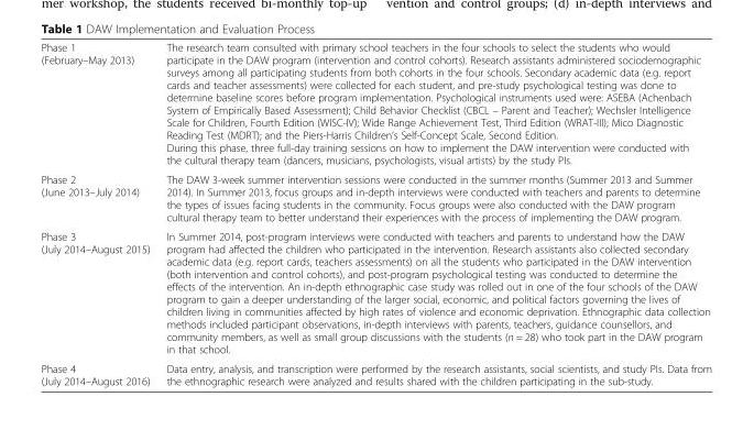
<table><tbody><tr><td>Phase 1 (February–May 2013)</td><td>The research team consulted with primary school teachers in the four schools to select the students who would participate in the DAW program (intervention and control cohorts). Research assistants administered sociodemographic surveys among all participating students from both cohorts in the four schools. Secondary academic data (e.g. report cards and teacher assessments) were collected for each student, and pre-study psychological testing was done to determine baseline scores before program implementation. Psychological instruments used were: ASEBA (Achenbach System of Empirically Based Assessment); Child Behavior Checklist (CBCL – Parent and Teacher); Wechsler Intelligence Scale for Children, Fourth Edition (WISC-IV); Wide Range Achievement Test, Third Edition (WRAT-III); Mico Diagnostic Reading Test (MDRT); and the Piers-Harris Children’s Self-Concept Scale, Second Edition. During this phase, three full-day training sessions on how to implement the DAW intervention were conducted with the cultural therapy team (dancers, musicians, psychologists, visual artists) by the study PIs.</td></tr><tr><td>Phase 2 (June 2013–July 2014)</td><td>The DAW 3-week summer intervention sessions were conducted in the summer months (Summer 2013 and Summer 2014). In Summer 2013, focus groups and in-depth interviews were conducted with teachers and parents to determine the types of issues facing students in the community. Focus groups were also conducted with the DAW program cultural therapy team to better understand their experiences with the process of implementing the DAW program.</td></tr><tr><td>Phase 3 (July 2014–August 2015)</td><td>In Summer 2014, post-program interviews were conducted with teachers and parents to understand how the DAW program had affected the children who participated in the intervention. Research assistants also collected secondary academic data (e.g. report cards, teachers assessments) on all the students who participated in the DAW intervention (both intervention and control cohorts), and post-program psychological testing was conducted to determine the effects of the intervention. An in-depth ethnographic case study was rolled out in one of the four schools of the DAW program to gain a deeper understanding of the larger social, economic, and political factors governing the lives of children living in communities affected by high rates of violence and economic deprivation. Ethnographic data collection methods included participant observations, in-depth interviews with parents, teachers, guidance counsellors, and community members, as well as small group discussions with the students (n = 28) who took part in the DAW program in that school.</td></tr><tr><td>Phase 4 (July 2014–August 2016)</td><td>Data entry, analysis, and transcription were performed by the research assistants, social scientists, and study PIs. Data from the ethnographic research were analyzed and results shared with the children participating in the sub-study.</td></tr></tbody></table>